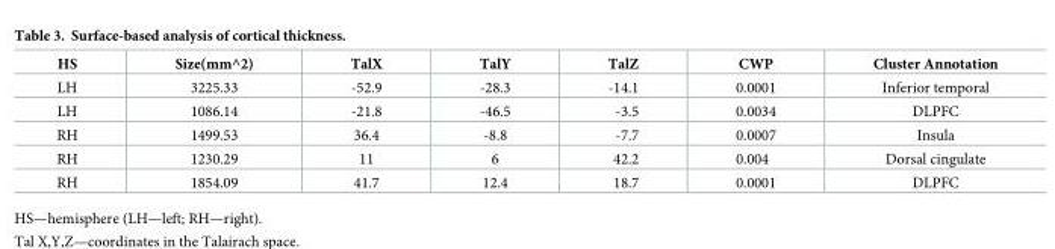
<table><thead><tr><td>HS</td><td>Size(mm^2)</td><td>TalX</td><td>TalY</td><td>TalZ</td><td>CWP</td><td>Cluster Annotation</td></tr></thead><tbody><tr><td>LH</td><td>3225.33</td><td>-52.9</td><td>-28.3</td><td>-14.1</td><td>0.0001</td><td>Inferior temporal</td></tr><tr><td>LH</td><td>1086.14</td><td>-21.8</td><td>-46.5</td><td>-3.5</td><td>0.0034</td><td>DLPFC</td></tr><tr><td>RH</td><td>1499.53</td><td>36.4</td><td>-8.8</td><td>-7.7</td><td>0.0007</td><td>Insula</td></tr><tr><td>RH</td><td>1230.29</td><td>11</td><td>6</td><td>42.2</td><td>0.004</td><td>Dorsal cingulate</td></tr><tr><td>RH</td><td>1854.09</td><td>41.7</td><td>12.4</td><td>18.7</td><td>0.0001</td><td>DLPFC</td></tr></tbody></table>